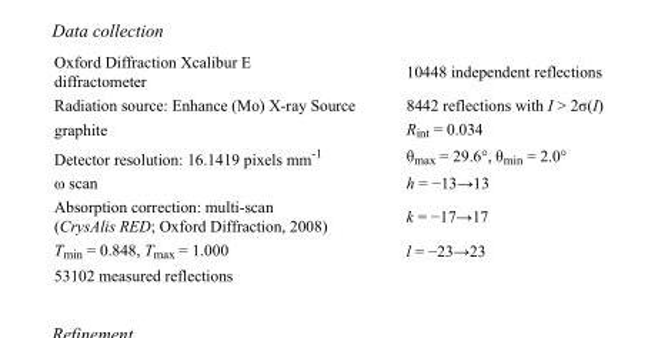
<table><tbody><tr><td>Oxford Diffraction Xcalibur E diffractometer</td><td>10448 independent reflections</td></tr><tr><td>Radiation source: Enhance (Mo) X-ray Source</td><td>8442 reflections with I &gt; 2σ(I)</td></tr><tr><td>graphite</td><td>R<sub>int</sub> = 0.034</td></tr><tr><td>Detector resolution: 16.1419 pixels mm<sup>-1</sup></td><td>θ<sub>max</sub> = 29.6°, θ<sub>min</sub> = 2.0°</td></tr><tr><td>ω scan</td><td>h = −13→13</td></tr><tr><td>Absorption correction: multi-scan (CrysAlis RED; Oxford Diffraction, 2008)</td><td>k = −17→17</td></tr><tr><td>T<sub>min</sub> = 0.848, T<sub>max</sub> = 1.000</td><td>l = −23→23</td></tr><tr><td>53102 measured reflections</td><td></td></tr></tbody></table>